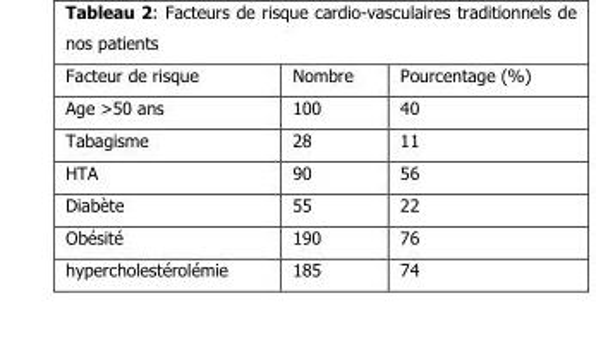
<table><thead><tr><td>Facteur de risque</td><td>Nombre</td><td>Pourcentage (%)</td></tr></thead><tbody><tr><td>Age &gt;50 ans</td><td>100</td><td>40</td></tr><tr><td>Tabagisme</td><td>28</td><td>11</td></tr><tr><td>HTA</td><td>90</td><td>56</td></tr><tr><td>Diabète</td><td>55</td><td>22</td></tr><tr><td>Obésité</td><td>190</td><td>76</td></tr><tr><td>hypercholestérolémie</td><td>185</td><td>74</td></tr></tbody></table>